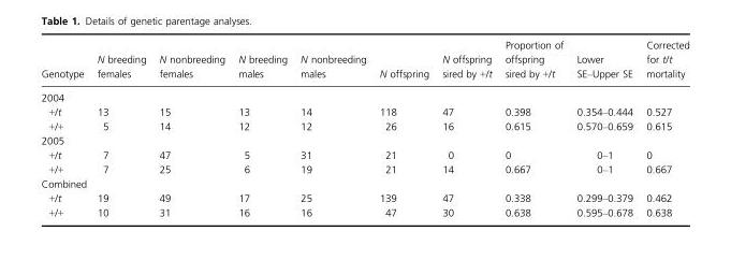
<table><thead><tr><td>Genotype</td><td>N breeding females</td><td>N nonbreeding females</td><td>N breeding males</td><td>N nonbreeding males</td><td>N offspring</td><td>N offspring sired by +/t</td><td>Proportion of offspring sired by +/t</td><td>Lower SE–Upper SE</td><td>Corrected for t/t mortality</td></tr></thead><tbody><tr><td colspan="10">2004</td></tr><tr><td>+/t</td><td>13</td><td>15</td><td>13</td><td>14</td><td>118</td><td>47</td><td>0.398</td><td>0.354–0.444</td><td>0.527</td></tr><tr><td>+/+</td><td>5</td><td>14</td><td>12</td><td>12</td><td>26</td><td>16</td><td>0.615</td><td>0.570–0.659</td><td>0.615</td></tr><tr><td colspan="10">2005</td></tr><tr><td>+/t</td><td>7</td><td>47</td><td>5</td><td>31</td><td>21</td><td>0</td><td>0</td><td>0–1</td><td>0</td></tr><tr><td>+/+</td><td>7</td><td>25</td><td>6</td><td>19</td><td>21</td><td>14</td><td>0.667</td><td>0–1</td><td>0.667</td></tr><tr><td colspan="10">Combined</td></tr><tr><td>+/t</td><td>19</td><td>49</td><td>17</td><td>25</td><td>139</td><td>47</td><td>0.338</td><td>0.299–0.379</td><td>0.462</td></tr><tr><td>+/+</td><td>10</td><td>31</td><td>16</td><td>16</td><td>47</td><td>30</td><td>0.638</td><td>0.595–0.678</td><td>0.638</td></tr></tbody></table>